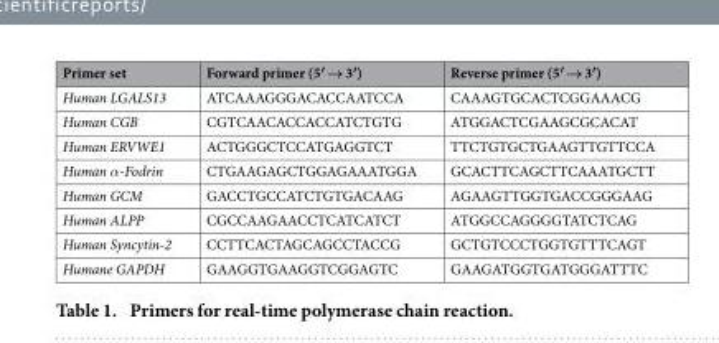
<table><thead><tr><td>Primer set</td><td>Forward primer (5′ → 3′)</td><td>Reverse primer (5′ → 3′)</td></tr></thead><tbody><tr><td>Human LGALS13</td><td>ATCAAAGGGACACCAATCCA</td><td>CAAAGTGCACTCGGAAACG</td></tr><tr><td>Human CGB</td><td>CGTCAACACCACCATCTGTG</td><td>ATGGACTCGAAGCGCACAT</td></tr><tr><td>Human ERVWE1</td><td>ACTGGGCTCCATGAGGTCT</td><td>TTCTGTGCTGAAGTTGTTCCA</td></tr><tr><td>Human α-Fodrin</td><td>CTGAAGAGCTGGAGAAATGGA</td><td>GCACTTCAGCTTCAAATGCTT</td></tr><tr><td>Human GCM</td><td>GACCTGCCATCTGTGACAAG</td><td>AGAAGTTGGTGACCGGGAAG</td></tr><tr><td>Human ALPP</td><td>CGCCAAGAACCTCATCATCT</td><td>ATGGCCAGGGGTATCTCAG</td></tr><tr><td>Human Syncytin-2</td><td>CCTTCACTAGCAGCCTACCG</td><td>GCTGTCCCTGGTGTTTCAGT</td></tr><tr><td>Humane GAPDH</td><td>GAAGGTGAAGGTCGGAGTC</td><td>GAAGATGGTGATGGGATTTC</td></tr></tbody></table>